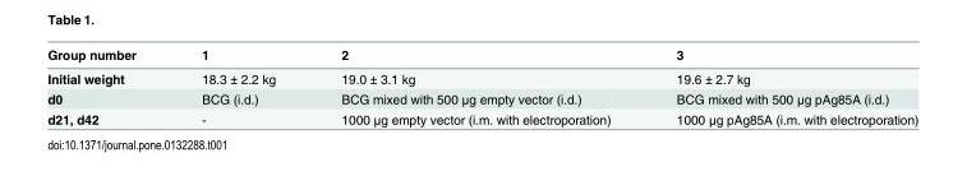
<table><thead><tr><td>Group number</td><td>1</td><td>2</td><td>3</td></tr></thead><tbody><tr><td>Initial weight</td><td>18.3 ± 2.2 kg</td><td>19.0 ± 3.1 kg</td><td>19.6 ± 2.7 kg</td></tr><tr><td>d0</td><td>BCG (i.d.)</td><td>BCG mixed with 500 μg empty vector (i.d.)</td><td>BCG mixed with 500 μg pAg85A (i.d.)</td></tr><tr><td>d21, d42</td><td>-</td><td>1000 μg empty vector (i.m. with electroporation)</td><td>1000 μg pAg85A (i.m. with electroporation)</td></tr></tbody></table>